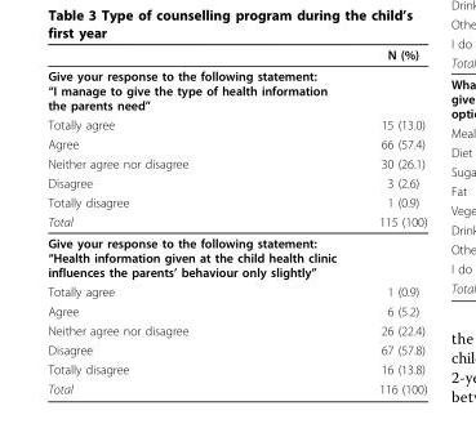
<table><thead><tr><td></td><td>N (%)</td></tr></thead><tbody><tr><td colspan="2">Give your response to the following statement: “I manage to give the type of health information the parents need”</td></tr><tr><td>Totally agree</td><td>15 (13.0)</td></tr><tr><td>Agree</td><td>66 (57.4)</td></tr><tr><td>Neither agree nor disagree</td><td>30 (26.1)</td></tr><tr><td>Disagree</td><td>3 (2.6)</td></tr><tr><td>Totally disagree</td><td>1 (0.9)</td></tr><tr><td>Total</td><td>115 (100)</td></tr><tr><td colspan="2">Give your response to the following statement: “Health information given at the child health clinic influences the parents’ behaviour only slightly”</td></tr><tr><td>Totally agree</td><td>1 (0.9)</td></tr><tr><td>Agree</td><td>6 (5.2)</td></tr><tr><td>Neither agree nor disagree</td><td>26 (22.4)</td></tr><tr><td>Disagree</td><td>67 (57.8)</td></tr><tr><td>Totally disagree</td><td>16 (13.8)</td></tr><tr><td>Total</td><td>116 (100)</td></tr></tbody></table>